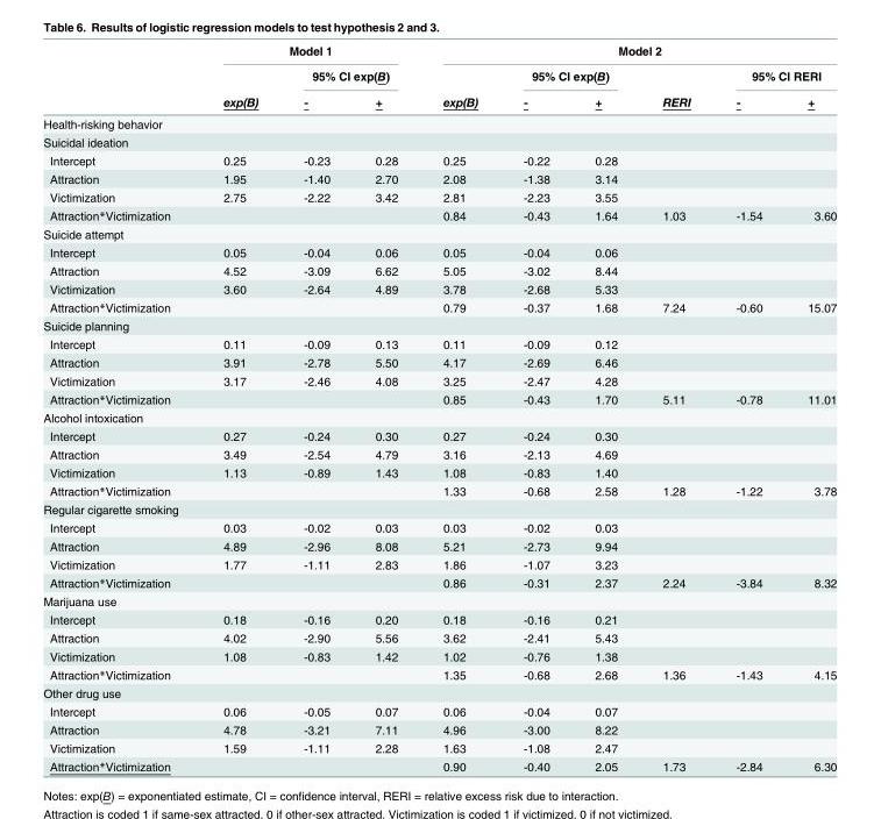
<table><thead><tr><td rowspan="3"></td><td colspan="3">Model 1</td><td colspan="6">Model 2</td></tr><tr><td rowspan="2">exp(B)</td><td colspan="2">95% CI exp(B)</td><td rowspan="2">exp(B)</td><td colspan="2">95% CI exp(B)</td><td rowspan="2">RERI</td><td colspan="2">95% CI RERI</td></tr><tr><td>-</td><td>+</td><td>-</td><td>+</td><td>-</td><td>+</td></tr></thead><tbody><tr><td colspan="10">Health-risking behavior</td></tr><tr><td colspan="10">Suicidal ideation</td></tr><tr><td>Intercept</td><td>0.25</td><td>-0.23</td><td>0.28</td><td>0.25</td><td>-0.22</td><td>0.28</td><td></td><td></td><td></td></tr><tr><td>Attraction</td><td>1.95</td><td>-1.40</td><td>2.70</td><td>2.08</td><td>-1.38</td><td>3.14</td><td></td><td></td><td></td></tr><tr><td>Victimization</td><td>2.75</td><td>-2.22</td><td>3.42</td><td>2.81</td><td>-2.23</td><td>3.55</td><td></td><td></td><td></td></tr><tr><td>Attraction*Victimization</td><td></td><td></td><td></td><td>0.84</td><td>-0.43</td><td>1.64</td><td>1.03</td><td>-1.54</td><td>3.60</td></tr><tr><td colspan="10">Suicide attempt</td></tr><tr><td>Intercept</td><td>0.05</td><td>-0.04</td><td>0.06</td><td>0.05</td><td>-0.04</td><td>0.06</td><td></td><td></td><td></td></tr><tr><td>Attraction</td><td>4.52</td><td>-3.09</td><td>6.62</td><td>5.05</td><td>-3.02</td><td>8.44</td><td></td><td></td><td></td></tr><tr><td>Victimization</td><td>3.60</td><td>-2.64</td><td>4.89</td><td>3.78</td><td>-2.68</td><td>5.33</td><td></td><td></td><td></td></tr><tr><td>Attraction*Victimization</td><td></td><td></td><td></td><td>0.79</td><td>-0.37</td><td>1.68</td><td>7.24</td><td>-0.60</td><td>15.07</td></tr><tr><td colspan="10">Suicide planning</td></tr><tr><td>Intercept</td><td>0.11</td><td>-0.09</td><td>0.13</td><td>0.11</td><td>-0.09</td><td>0.12</td><td></td><td></td><td></td></tr><tr><td>Attraction</td><td>3.91</td><td>-2.78</td><td>5.50</td><td>4.17</td><td>-2.69</td><td>6.46</td><td></td><td></td><td></td></tr><tr><td>Victimization</td><td>3.17</td><td>-2.46</td><td>4.08</td><td>3.25</td><td>-2.47</td><td>4.28</td><td></td><td></td><td></td></tr><tr><td>Attraction*Victimization</td><td></td><td></td><td></td><td>0.85</td><td>-0.43</td><td>1.70</td><td>5.11</td><td>-0.78</td><td>11.01</td></tr><tr><td colspan="10">Alcohol intoxication</td></tr><tr><td>Intercept</td><td>0.27</td><td>-0.24</td><td>0.30</td><td>0.27</td><td>-0.24</td><td>0.30</td><td></td><td></td><td></td></tr><tr><td>Attraction</td><td>3.49</td><td>-2.54</td><td>4.79</td><td>3.16</td><td>-2.13</td><td>4.69</td><td></td><td></td><td></td></tr><tr><td>Victimization</td><td>1.13</td><td>-0.89</td><td>1.43</td><td>1.08</td><td>-0.83</td><td>1.40</td><td></td><td></td><td></td></tr><tr><td>Attraction*Victimization</td><td></td><td></td><td></td><td>1.33</td><td>-0.68</td><td>2.58</td><td>1.28</td><td>-1.22</td><td>3.78</td></tr><tr><td colspan="10">Regular cigarette smoking</td></tr><tr><td>Intercept</td><td>0.03</td><td>-0.02</td><td>0.03</td><td>0.03</td><td>-0.02</td><td>0.03</td><td></td><td></td><td></td></tr><tr><td>Attraction</td><td>4.89</td><td>-2.96</td><td>8.08</td><td>5.21</td><td>-2.73</td><td>9.94</td><td></td><td></td><td></td></tr><tr><td>Victimization</td><td>1.77</td><td>-1.11</td><td>2.83</td><td>1.86</td><td>-1.07</td><td>3.23</td><td></td><td></td><td></td></tr><tr><td>Attraction*Victimization</td><td></td><td></td><td></td><td>0.86</td><td>-0.31</td><td>2.37</td><td>2.24</td><td>-3.84</td><td>8.32</td></tr><tr><td colspan="10">Marijuana use</td></tr><tr><td>Intercept</td><td>0.18</td><td>-0.16</td><td>0.20</td><td>0.18</td><td>-0.16</td><td>0.21</td><td></td><td></td><td></td></tr><tr><td>Attraction</td><td>4.02</td><td>-2.90</td><td>5.56</td><td>3.62</td><td>-2.41</td><td>5.43</td><td></td><td></td><td></td></tr><tr><td>Victimization</td><td>1.08</td><td>-0.83</td><td>1.42</td><td>1.02</td><td>-0.76</td><td>1.38</td><td></td><td></td><td></td></tr><tr><td>Attraction*Victimization</td><td></td><td></td><td></td><td>1.35</td><td>-0.68</td><td>2.68</td><td>1.36</td><td>-1.43</td><td>4.15</td></tr><tr><td colspan="10">Other drug use</td></tr><tr><td>Intercept</td><td>0.06</td><td>-0.05</td><td>0.07</td><td>0.06</td><td>-0.04</td><td>0.07</td><td></td><td></td><td></td></tr><tr><td>Attraction</td><td>4.78</td><td>-3.21</td><td>7.11</td><td>4.96</td><td>-3.00</td><td>8.22</td><td></td><td></td><td></td></tr><tr><td>Victimization</td><td>1.59</td><td>-1.11</td><td>2.28</td><td>1.63</td><td>-1.08</td><td>2.47</td><td></td><td></td><td></td></tr><tr><td>Attraction*Victimization</td><td></td><td></td><td></td><td>0.90</td><td>-0.40</td><td>2.05</td><td>1.73</td><td>-2.84</td><td>6.30</td></tr></tbody></table>